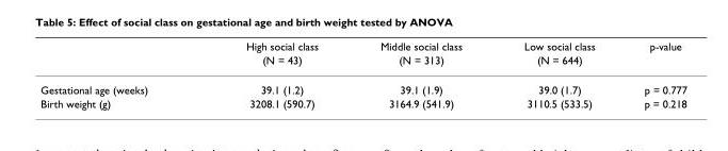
<table><thead><tr><td rowspan="2"></td><td rowspan="2">High social class (N = 43)</td><td rowspan="2">Middle social class (N = 313)</td><td rowspan="2">Low social class (N = 644)</td><td rowspan="2">p-value</td></tr><tr></tr></thead><tbody><tr><td>Gestational age (weeks)</td><td>39.1 (1.2)</td><td>39.1 (1.9)</td><td>39.0 (1.7)</td><td>p = 0.777</td></tr><tr><td>Birth weight (g)</td><td>3208.1 (590.7)</td><td>3164.9 (541.9)</td><td>3110.5 (533.5)</td><td>p = 0.218</td></tr></tbody></table>